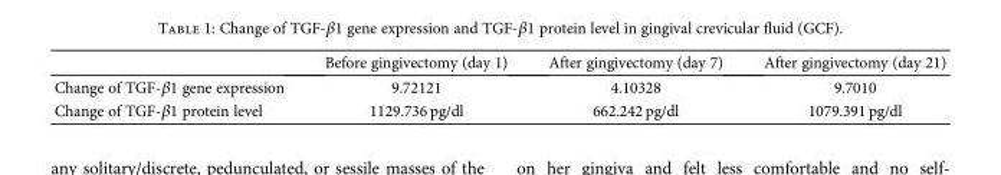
<table><thead><tr><td></td><td>Before gingivectomy (day 1)</td><td>After gingivectomy (day 7)</td><td>After gingivectomy (day 21)</td></tr></thead><tbody><tr><td>Change of TGF-β1 gene expression</td><td>9.72121</td><td>4.10328</td><td>9.7010</td></tr><tr><td>Change of TGF-β1 protein level</td><td>1129.736 pg/dl</td><td>662.242 pg/dl</td><td>1079.391 pg/dl</td></tr></tbody></table>